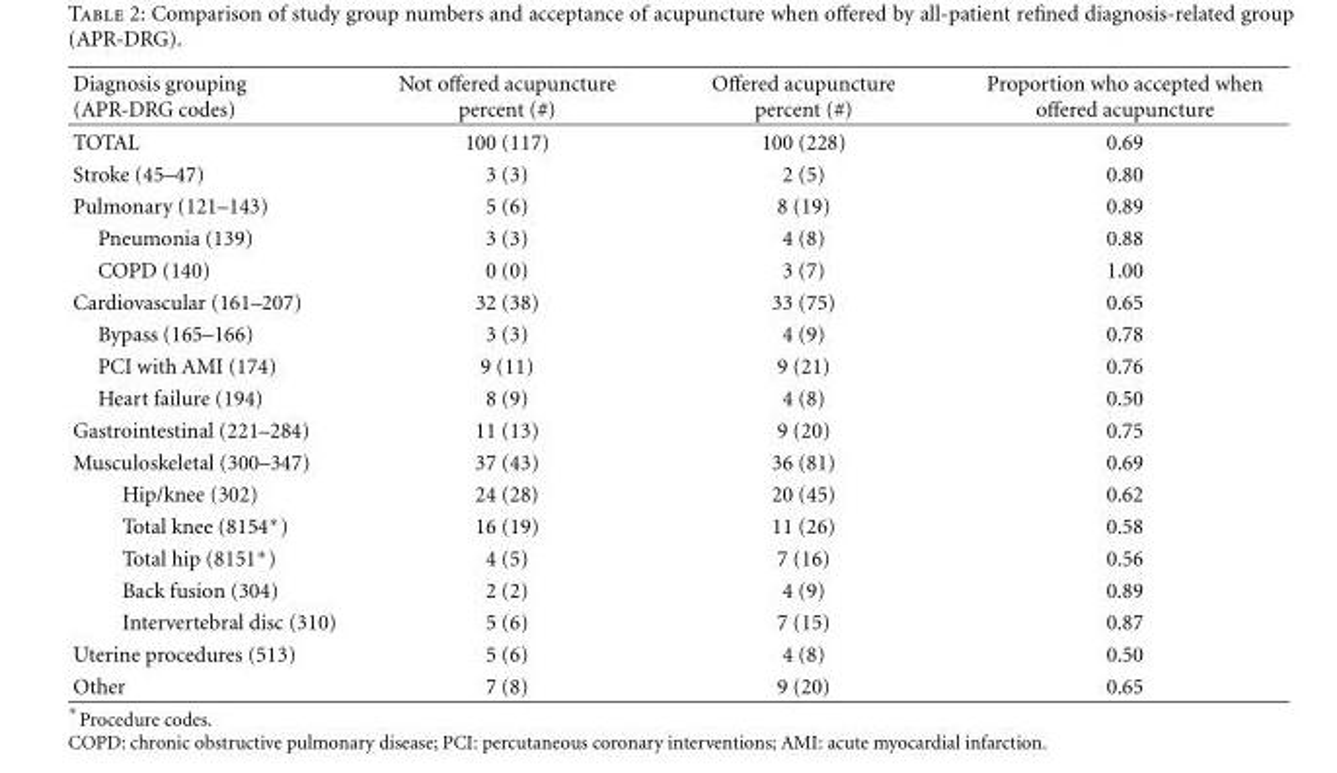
<table><thead><tr><td>Diagnosis grouping (APR-DRG codes)</td><td>Not offered acupuncture percent (#)</td><td>Offered acupuncture percent (#)</td><td>Proportion who accepted when offered acupuncture</td></tr></thead><tbody><tr><td>TOTAL</td><td>100 (117)</td><td>100 (228)</td><td>0.69</td></tr><tr><td>Stroke (45–47)</td><td>3 (3)</td><td>2 (5)</td><td>0.80</td></tr><tr><td>Pulmonary (121–143)</td><td>5 (6)</td><td>8 (19)</td><td>0.89</td></tr><tr><td>Pneumonia (139)</td><td>3 (3)</td><td>4 (8)</td><td>0.88</td></tr><tr><td>COPD (140)</td><td>0 (0)</td><td>3 (7)</td><td>1.00</td></tr><tr><td>Cardiovascular (161–207)</td><td>32 (38)</td><td>33 (75)</td><td>0.65</td></tr><tr><td>Bypass (165–166)</td><td>3 (3)</td><td>4 (9)</td><td>0.78</td></tr><tr><td>PCI with AMI (174)</td><td>9 (11)</td><td>9 (21)</td><td>0.76</td></tr><tr><td>Heart failure (194)</td><td>8 (9)</td><td>4 (8)</td><td>0.50</td></tr><tr><td>Gastrointestinal (221–284)</td><td>11 (13)</td><td>9 (20)</td><td>0.75</td></tr><tr><td>Musculoskeletal (300–347)</td><td>37 (43)</td><td>36 (81)</td><td>0.69</td></tr><tr><td>Hip/knee (302)</td><td>24 (28)</td><td>20 (45)</td><td>0.62</td></tr><tr><td>Total knee (8154∗)</td><td>16 (19)</td><td>11 (26)</td><td>0.58</td></tr><tr><td>Total hip (8151∗)</td><td>4 (5)</td><td>7 (16)</td><td>0.56</td></tr><tr><td>Back fusion (304)</td><td>2 (2)</td><td>4 (9)</td><td>0.89</td></tr><tr><td>Intervertebral disc (310)</td><td>5 (6)</td><td>7 (15)</td><td>0.87</td></tr><tr><td>Uterine procedures (513)</td><td>5 (6)</td><td>4 (8)</td><td>0.50</td></tr><tr><td>Other</td><td>7 (8)</td><td>9 (20)</td><td>0.65</td></tr></tbody></table>